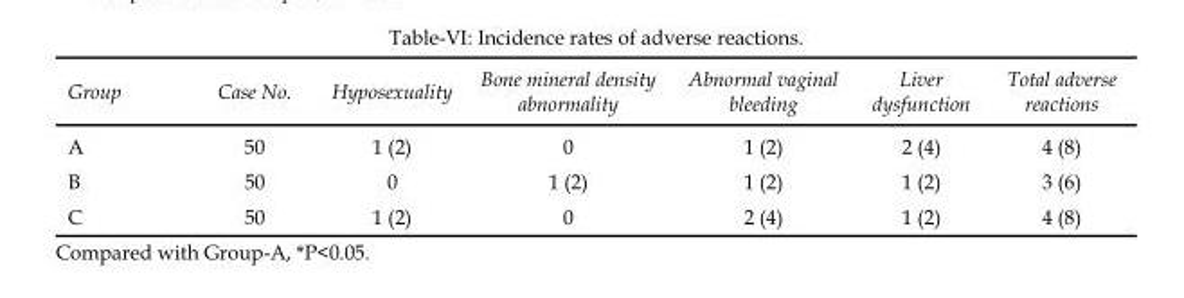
<table><thead><tr><td>Group</td><td>Case No.</td><td>Hyposexuality</td><td>Bone mineral density abnormality</td><td>Abnormal vaginal bleeding</td><td>Liver dysfunction</td><td>Total adverse reactions</td></tr></thead><tbody><tr><td>A</td><td>50</td><td>1 (2)</td><td>0</td><td>1 (2)</td><td>2 (4)</td><td>4 (8)</td></tr><tr><td>B</td><td>50</td><td>0</td><td>1 (2)</td><td>1 (2)</td><td>1 (2)</td><td>3 (6)</td></tr><tr><td>C</td><td>50</td><td>1 (2)</td><td>0</td><td>2 (4)</td><td>1 (2)</td><td>4 (8)</td></tr></tbody></table>